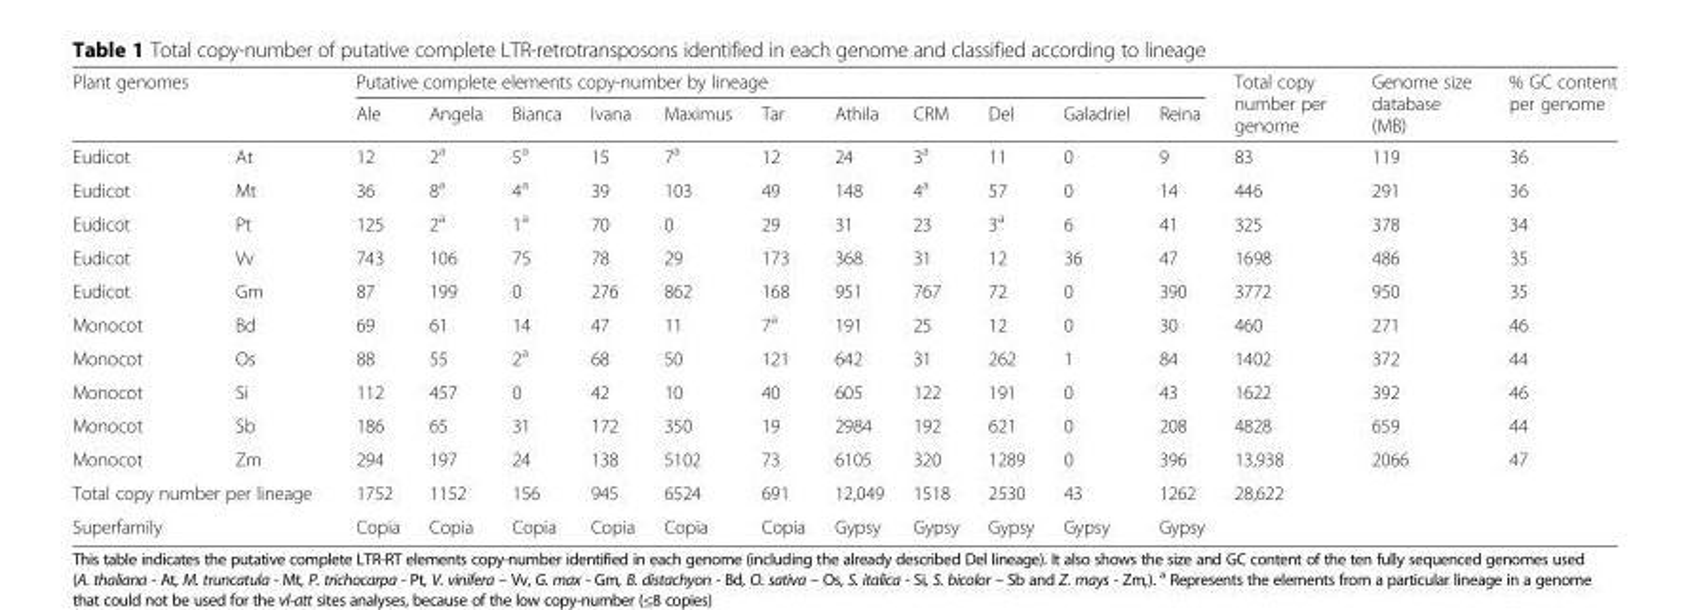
<table><thead><tr><td rowspan="2" colspan="2">Plant genomes</td><td colspan="11">Putative complete elements copy-number by lineage</td><td rowspan="3">Total copy number per genome 83</td><td rowspan="3">Genome size database (MB) 119</td><td rowspan="3">% GC content per genome 36</td></tr><tr><td rowspan="2">Ale 12</td><td rowspan="2">Angela 2<sup>a</sup></td><td rowspan="2">Bianca 5<sup>a</sup></td><td rowspan="2">Ivana 15</td><td rowspan="2">Maximus 7<sup>a</sup></td><td rowspan="2">Tar 12</td><td rowspan="2">Athila 24</td><td rowspan="2">CRM 3<sup>a</sup></td><td rowspan="2">Del 11</td><td rowspan="2">Galadriel 0</td><td rowspan="2">Reina 9</td></tr><tr><td>Eudicot</td><td>At</td></tr></thead><tbody><tr><td>Eudicot</td><td>Mt</td><td>36</td><td>8<sup>a</sup></td><td>4<sup>a</sup></td><td>39</td><td>103</td><td>49</td><td>148</td><td>4<sup>a</sup></td><td>57</td><td>0</td><td>14</td><td>446</td><td>291</td><td>36</td></tr><tr><td>Eudicot</td><td>Pt</td><td>125</td><td>2<sup>a</sup></td><td>1<sup>a</sup></td><td>70</td><td>0</td><td>29</td><td>31</td><td>23</td><td>3<sup>a</sup></td><td>6</td><td>41</td><td>325</td><td>378</td><td>34</td></tr><tr><td>Eudicot</td><td>Vv</td><td>743</td><td>106</td><td>75</td><td>78</td><td>29</td><td>173</td><td>368</td><td>31</td><td>12</td><td>36</td><td>47</td><td>1698</td><td>486</td><td>35</td></tr><tr><td>Eudicot</td><td>Gm</td><td>87</td><td>199</td><td>0</td><td>276</td><td>862</td><td>168</td><td>951</td><td>767</td><td>72</td><td>0</td><td>390</td><td>3772</td><td>950</td><td>35</td></tr><tr><td>Monocot</td><td>Bd</td><td>69</td><td>61</td><td>14</td><td>47</td><td>11</td><td>7<sup>a</sup></td><td>191</td><td>25</td><td>12</td><td>0</td><td>30</td><td>460</td><td>271</td><td>46</td></tr><tr><td>Monocot</td><td>Os</td><td>88</td><td>55</td><td>2<sup>a</sup></td><td>68</td><td>50</td><td>121</td><td>642</td><td>31</td><td>262</td><td>1</td><td>84</td><td>1402</td><td>372</td><td>44</td></tr><tr><td>Monocot</td><td>Si</td><td>112</td><td>457</td><td>0</td><td>42</td><td>10</td><td>40</td><td>605</td><td>122</td><td>191</td><td>0</td><td>43</td><td>1622</td><td>392</td><td>46</td></tr><tr><td>Monocot</td><td>Sb</td><td>186</td><td>65</td><td>31</td><td>172</td><td>350</td><td>19</td><td>2984</td><td>192</td><td>621</td><td>0</td><td>208</td><td>4828</td><td>659</td><td>44</td></tr><tr><td>Monocot</td><td>Zm</td><td>294</td><td>197</td><td>24</td><td>138</td><td>5102</td><td>73</td><td>6105</td><td>320</td><td>1289</td><td>0</td><td>396</td><td>13,938</td><td>2066</td><td>47</td></tr><tr><td colspan="2">Total copy number per lineage</td><td>1752</td><td>1152</td><td>156</td><td>945</td><td>6524</td><td>691</td><td>12,049</td><td>1518</td><td>2530</td><td>43</td><td>1262</td><td>28,622</td><td colspan="2"></td></tr><tr><td colspan="2">Superfamily</td><td>Copia</td><td>Copia</td><td>Copia</td><td>Copia</td><td>Copia</td><td>Copia</td><td>Gypsy</td><td>Gypsy</td><td>Gypsy</td><td>Gypsy</td><td>Gypsy</td><td colspan="3"></td></tr></tbody></table>